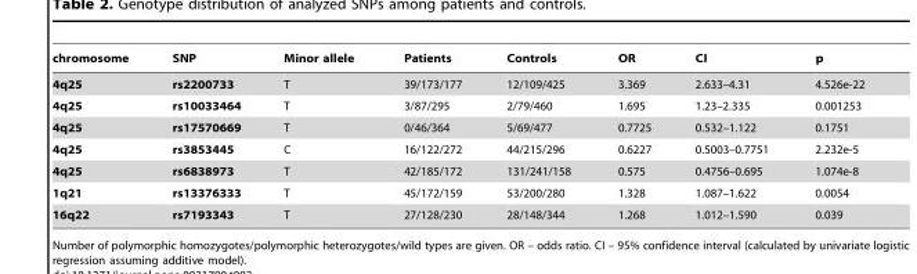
<table><thead><tr><td>chromosome</td><td>SNP</td><td>Minor allele</td><td>Patients</td><td>Controls</td><td>OR</td><td>CI</td><td>p</td></tr></thead><tbody><tr><td>4q25</td><td>rs2200733</td><td>T</td><td>39/173/177</td><td>12/109/425</td><td>3.369</td><td>2.633–4.31</td><td>4.526e-22</td></tr><tr><td>4q25</td><td>rs10033464</td><td>T</td><td>3/87/295</td><td>2/79/460</td><td>1.695</td><td>1.23–2.335</td><td>0.001253</td></tr><tr><td>4q25</td><td>rs17570669</td><td>T</td><td>0/46/364</td><td>5/69/477</td><td>0.7725</td><td>0.532–1.122</td><td>0.1751</td></tr><tr><td>4q25</td><td>rs3853445</td><td>C</td><td>16/122/272</td><td>44/215/296</td><td>0.6227</td><td>0.5003–0.7751</td><td>2.232e-5</td></tr><tr><td>4q25</td><td>rs6838973</td><td>T</td><td>42/185/172</td><td>131/241/158</td><td>0.575</td><td>0.4756–0.695</td><td>1.074e-8</td></tr><tr><td>1q21</td><td>rs13376333</td><td>T</td><td>45/172/159</td><td>53/200/280</td><td>1.328</td><td>1.087–1.622</td><td>0.0054</td></tr><tr><td>16q22</td><td>rs7193343</td><td>T</td><td>27/128/230</td><td>28/148/344</td><td>1.268</td><td>1.012–1.590</td><td>0.039</td></tr></tbody></table>